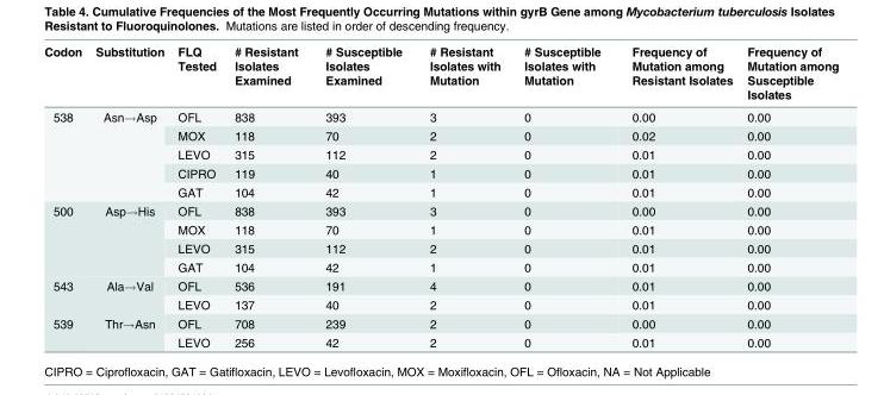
<table><thead><tr><td>Codon</td><td>Substitution</td><td>FLQ Tested</td><td># Resistant Isolates Examined</td><td># Susceptible Isolates Examined</td><td># Resistant Isolates with Mutation</td><td># Susceptible Isolates with Mutation</td><td>Frequency of Mutation among Resistant Isolates</td><td>Frequency of Mutation among Susceptible Isolates</td></tr></thead><tbody><tr><td rowspan="5">538</td><td rowspan="5">Asn→Asp</td><td>OFL</td><td>838</td><td>393</td><td>3</td><td>0</td><td>0.00</td><td>0.00</td></tr><tr><td>MOX</td><td>118</td><td>70</td><td>2</td><td>0</td><td>0.02</td><td>0.00</td></tr><tr><td>LEVO</td><td>315</td><td>112</td><td>2</td><td>0</td><td>0.01</td><td>0.00</td></tr><tr><td>CIPRO</td><td>119</td><td>40</td><td>1</td><td>0</td><td>0.01</td><td>0.00</td></tr><tr><td>GAT</td><td>104</td><td>42</td><td>1</td><td>0</td><td>0.01</td><td>0.00</td></tr><tr><td rowspan="4">500</td><td rowspan="4">Asp→His</td><td>OFL</td><td>838</td><td>393</td><td>3</td><td>0</td><td>0.00</td><td>0.00</td></tr><tr><td>MOX</td><td>118</td><td>70</td><td>1</td><td>0</td><td>0.01</td><td>0.00</td></tr><tr><td>LEVO</td><td>315</td><td>112</td><td>2</td><td>0</td><td>0.01</td><td>0.00</td></tr><tr><td>GAT</td><td>104</td><td>42</td><td>1</td><td>0</td><td>0.01</td><td>0.00</td></tr><tr><td rowspan="2">543</td><td rowspan="2">Ala→Val</td><td>OFL</td><td>536</td><td>191</td><td>4</td><td>0</td><td>0.01</td><td>0.00</td></tr><tr><td>LEVO</td><td>137</td><td>40</td><td>2</td><td>0</td><td>0.01</td><td>0.00</td></tr><tr><td rowspan="2">539</td><td rowspan="2">Thr→Asn</td><td>OFL</td><td>708</td><td>239</td><td>2</td><td>0</td><td>0.00</td><td>0.00</td></tr><tr><td>LEVO</td><td>256</td><td>42</td><td>2</td><td>0</td><td>0.01</td><td>0.00</td></tr></tbody></table>